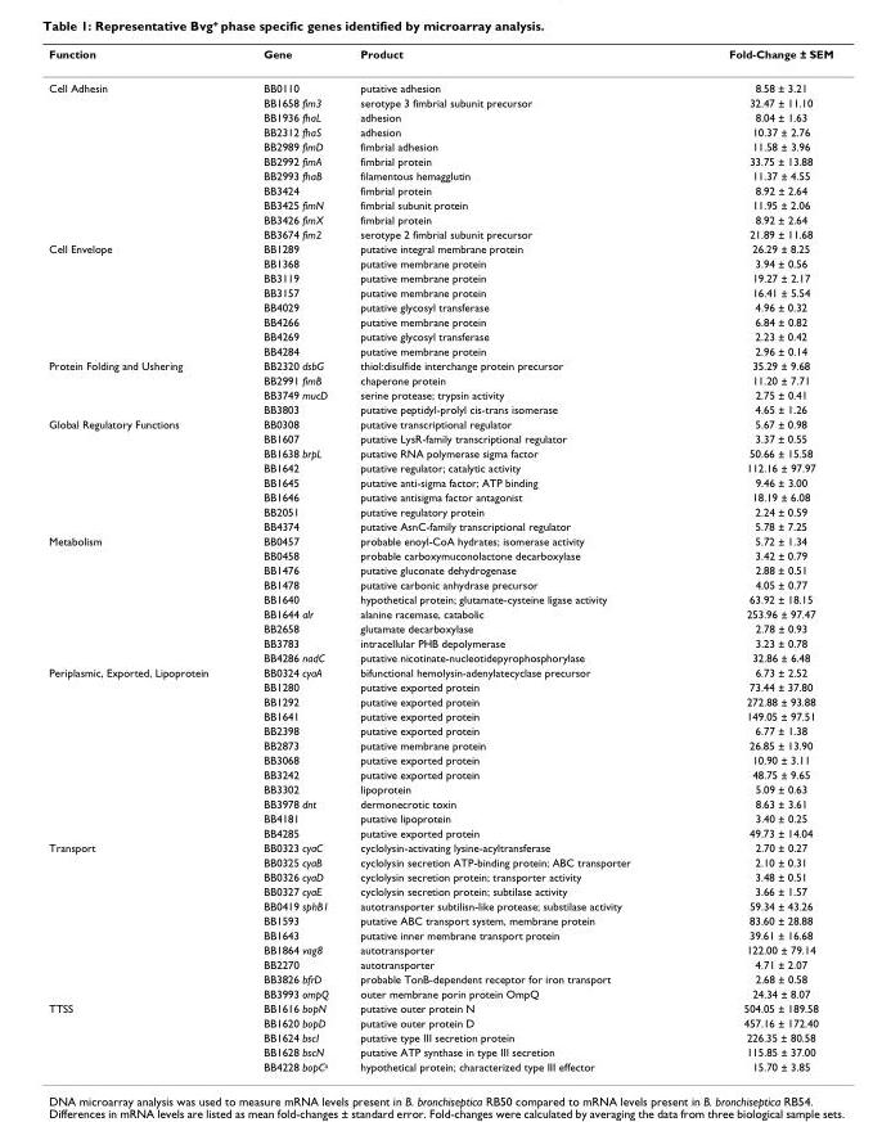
<table><thead><tr><td>Function</td><td>Gene</td><td>Product</td><td>Fold-Change ± SEM</td></tr></thead><tbody><tr><td rowspan="11">Cell Adhesin</td><td>BB0110</td><td>putative adhesion</td><td>8.58 ± 3.21</td></tr><tr><td>BB1658 fim3</td><td>serotype 3 fimbrial subunit precursor</td><td>32.47 ± 11.10</td></tr><tr><td>BB1936 fhaL</td><td>adhesion</td><td>8.04 ± 1.63</td></tr><tr><td>BB2312 fhaS</td><td>adhesion</td><td>10.37 ± 2.76</td></tr><tr><td>BB2989 fimD</td><td>fimbrial adhesion</td><td>11.58 ± 3.96</td></tr><tr><td>BB2992 fimA</td><td>fimbrial protein</td><td>33.75 ± 13.88</td></tr><tr><td>BB2993 fhaB</td><td>filamentous hemagglutin</td><td>11.37 ± 4.55</td></tr><tr><td>BB3424</td><td>fimbrial protein</td><td>8.92 ± 2.64</td></tr><tr><td>BB3425 fimN</td><td>fimbrial subunit protein</td><td>11.95 ± 2.06</td></tr><tr><td>BB3426 fimX</td><td>fimbrial protein</td><td>8.92 ± 2.64</td></tr><tr><td>BB3674 fim2</td><td>serotype 2 fimbrial subunit precursor</td><td>21.89 ± 11.68</td></tr><tr><td rowspan="8">Cell Envelope</td><td>BB1289</td><td>putative integral membrane protein</td><td>26.29 ± 8.25</td></tr><tr><td>BB1368</td><td>putative membrane protein</td><td>3.94 ± 0.56</td></tr><tr><td>BB3119</td><td>putative membrane protein</td><td>19.27 ± 2.17</td></tr><tr><td>BB3157</td><td>putative membrane protein</td><td>16.41 ± 5.54</td></tr><tr><td>BB4029</td><td>putative glycosyl transferase</td><td>4.96 ± 0.32</td></tr><tr><td>BB4266</td><td>putative membrane protein</td><td>6.84 ± 0.82</td></tr><tr><td>BB4269</td><td>putative glycosyl transferase</td><td>2.23 ± 0.42</td></tr><tr><td>BB4284</td><td>putative membrane protein</td><td>2.96 ± 0.14</td></tr><tr><td rowspan="4">Protein Folding and Ushering</td><td>BB2320 dsbG</td><td>thiol:disulfide interchange protein precursor</td><td>35.29 ± 9.68</td></tr><tr><td>BB2991 fimB</td><td>chaperone protein</td><td>11.20 ± 7.71</td></tr><tr><td>BB3749 mucD</td><td>serine protease; trypsin activity</td><td>2.75 ± 0.41</td></tr><tr><td>BB3803</td><td>putative peptidyl-prolyl cis-trans isomerase</td><td>4.65 ± 1.26</td></tr><tr><td rowspan="8">Global Regulatory Functions</td><td>BB0308</td><td>putative transcriptional regulator</td><td>5.67 ± 0.98</td></tr><tr><td>BB1607</td><td>putative LysR-family transcriptional regulator</td><td>3.37 ± 0.55</td></tr><tr><td>BB1638 brpL</td><td>putative RNA polymerase sigma factor</td><td>50.66 ± 15.58</td></tr><tr><td>BB1642</td><td>putative regulator; catalytic activity</td><td>112.16 ± 97.97</td></tr><tr><td>BB1645</td><td>putative anti-sigma factor; ATP binding</td><td>9.46 ± 3.00</td></tr><tr><td>BB1646</td><td>putative antisigma factor antagonist</td><td>18.19 ± 6.08</td></tr><tr><td>BB2051</td><td>putative regulatory protein</td><td>2.24 ± 0.59</td></tr><tr><td>BB4374</td><td>putative AsnC-family transcriptional regulator</td><td>5.78 ± 7.25</td></tr><tr><td rowspan="9">Metabolism</td><td>BB0457</td><td>probable enoyl-CoA hydrates; isomerase activity</td><td>5.72 ± 1.34</td></tr><tr><td>BB0458</td><td>probable carboxymuconolactone decarboxylase</td><td>3.42 ± 0.79</td></tr><tr><td>BB1476</td><td>putative gluconate dehydrogenase</td><td>2.88 ± 0.51</td></tr><tr><td>BB1478</td><td>putative carbonic anhydrase precursor</td><td>4.05 ± 0.77</td></tr><tr><td>BB1640</td><td>hypothetical protein; glutamate-cysteine ligase activity</td><td>63.92 ± 18.15</td></tr><tr><td>BB1644 alr</td><td>alanine racemase, catabolic</td><td>253.96 ± 97.47</td></tr><tr><td>BB2658</td><td>glutamate decarboxylase</td><td>2.78 ± 0.93</td></tr><tr><td>BB3783</td><td>intracellular PHB depolymerase</td><td>3.23 ± 0.78</td></tr><tr><td>BB4286 nadC</td><td>putative nicotinate-nucleotidepyrophosphorylase</td><td>32.86 ± 6.48</td></tr><tr><td rowspan="12">Periplasmic, Exported, Lipoprotein</td><td>BB0324 cyaA</td><td>bifunctional hemolysin-adenylatecyclase precursor</td><td>6.73 ± 2.52</td></tr><tr><td>BB1280</td><td>putative exported protein</td><td>73.44 ± 37.80</td></tr><tr><td>BB1292</td><td>putative exported protein</td><td>272.88 ± 93.88</td></tr><tr><td>BB1641</td><td>putative exported protein</td><td>149.05 ± 97.51</td></tr><tr><td>BB2398</td><td>putative exported protein</td><td>6.77 ± 1.38</td></tr><tr><td>BB2873</td><td>putative membrane protein</td><td>26.85 ± 13.90</td></tr><tr><td>BB3068</td><td>putative exported protein</td><td>10.90 ± 3.11</td></tr><tr><td>BB3242</td><td>putative exported protein</td><td>48.75 ± 9.65</td></tr><tr><td>BB3302</td><td>lipoprotein</td><td>5.09 ± 0.63</td></tr><tr><td>BB3978 dnt</td><td>dermonecrotic toxin</td><td>8.63 ± 3.61</td></tr><tr><td>BB4181</td><td>putative lipoprotein</td><td>3.40 ± 0.25</td></tr><tr><td>BB4285</td><td>putative exported protein</td><td>49.73 ± 14.04</td></tr><tr><td rowspan="11">Transport</td><td>BB0323 cyaC</td><td>cyclolysin-activating lysine-acyltransferase</td><td>2.70 ± 0.27</td></tr><tr><td>BB0325 cyaB</td><td>cyclolysin secretion ATP-binding protein; ABC transporter</td><td>2.10 ± 0.31</td></tr><tr><td>BB0326 cyaD</td><td>cyclolysin secretion protein; transporter activity</td><td>3.48 ± 0.51</td></tr><tr><td>BB0327 cyaE</td><td>cyclolysin secretion protein; subtilase activity</td><td>3.66 ± 1.57</td></tr><tr><td>BB0419 sphB1</td><td>autotransporter subtilisn-like protease; substilase activity</td><td>59.34 ± 43.26</td></tr><tr><td>BB1593</td><td>putative ABC transport system, membrane protein</td><td>83.60 ± 28.88</td></tr><tr><td>BB1643</td><td>putative inner membrane transport protein</td><td>39.61 ± 16.68</td></tr><tr><td>BB1864 vag8</td><td>autotransporter</td><td>122.00 ± 79.14</td></tr><tr><td>BB2270</td><td>autotransporter</td><td>4.71 ± 2.07</td></tr><tr><td>BB3826 bfrD</td><td>probable TonB-dependent receptor for iron transport</td><td>2.68 ± 0.58</td></tr><tr><td>BB3993 ompQ</td><td>outer membrane porin protein OmpQ</td><td>24.34 ± 8.07</td></tr><tr><td rowspan="5">TTSS</td><td>BB1616 bopN</td><td>putative outer protein N</td><td>504.05 ± 189.58</td></tr><tr><td>BB1620 bopD</td><td>putative outer protein D</td><td>457.16 ± 172.40</td></tr><tr><td>BB1624 bscI</td><td>putative type III secretion protein</td><td>226.35 ± 80.58</td></tr><tr><td>BB1628 bscN</td><td>putative ATP synthase in type III secretion</td><td>115.85 ± 37.00</td></tr><tr><td>BB4228 bopC<sup>a</sup></td><td>hypothetical protein; characterized type III effector</td><td>15.70 ± 3.85</td></tr></tbody></table>